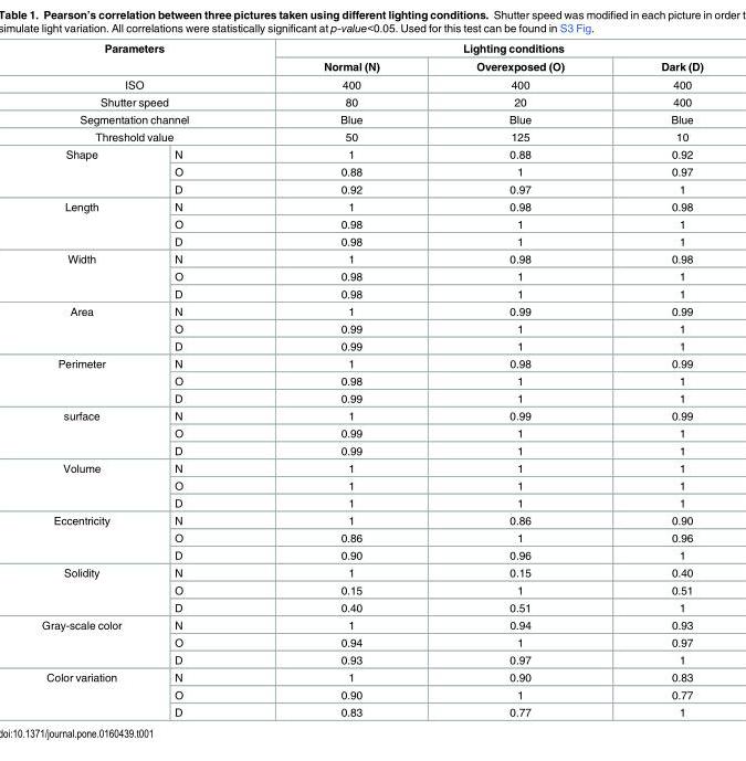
<table><thead><tr><td rowspan="2" colspan="2">Parameters</td><td colspan="3">Lighting conditions</td></tr><tr><td>Normal (N)</td><td>Overexposed (O)</td><td>Dark (D)</td></tr></thead><tbody><tr><td colspan="2">ISO</td><td>400</td><td>400</td><td>400</td></tr><tr><td colspan="2">Shutter speed</td><td>80</td><td>20</td><td>400</td></tr><tr><td colspan="2">Segmentation channel</td><td>Blue</td><td>Blue</td><td>Blue</td></tr><tr><td colspan="2">Threshold value</td><td>50</td><td>125</td><td>10</td></tr><tr><td rowspan="3">Shape</td><td>N</td><td>1</td><td>0.88</td><td>0.92</td></tr><tr><td>O</td><td>0.88</td><td>1</td><td>0.97</td></tr><tr><td>D</td><td>0.92</td><td>0.97</td><td>1</td></tr><tr><td rowspan="3">Length</td><td>N</td><td>1</td><td>0.98</td><td>0.98</td></tr><tr><td>O</td><td>0.98</td><td>1</td><td>1</td></tr><tr><td>D</td><td>0.98</td><td>1</td><td>1</td></tr><tr><td rowspan="3">Width</td><td>N</td><td>1</td><td>0.98</td><td>0.98</td></tr><tr><td>O</td><td>0.98</td><td>1</td><td>1</td></tr><tr><td>D</td><td>0.98</td><td>1</td><td>1</td></tr><tr><td rowspan="3">Area</td><td>N</td><td>1</td><td>0.99</td><td>0.99</td></tr><tr><td>O</td><td>0.99</td><td>1</td><td>1</td></tr><tr><td>D</td><td>0.99</td><td>1</td><td>1</td></tr><tr><td rowspan="3">Perimeter</td><td>N</td><td>1</td><td>0.98</td><td>0.99</td></tr><tr><td>O</td><td>0.98</td><td>1</td><td>1</td></tr><tr><td>D</td><td>0.99</td><td>1</td><td>1</td></tr><tr><td rowspan="3">surface</td><td>N</td><td>1</td><td>0.99</td><td>0.99</td></tr><tr><td>O</td><td>0.99</td><td>1</td><td>1</td></tr><tr><td>D</td><td>0.99</td><td>1</td><td>1</td></tr><tr><td rowspan="3">Volume</td><td>N</td><td>1</td><td>1</td><td>1</td></tr><tr><td>O</td><td>1</td><td>1</td><td>1</td></tr><tr><td>D</td><td>1</td><td>1</td><td>1</td></tr><tr><td rowspan="3">Eccentricity</td><td>N</td><td>1</td><td>0.86</td><td>0.90</td></tr><tr><td>O</td><td>0.86</td><td>1</td><td>0.96</td></tr><tr><td>D</td><td>0.90</td><td>0.96</td><td>1</td></tr><tr><td rowspan="3">Solidity</td><td>N</td><td>1</td><td>0.15</td><td>0.40</td></tr><tr><td>O</td><td>0.15</td><td>1</td><td>0.51</td></tr><tr><td>D</td><td>0.40</td><td>0.51</td><td>1</td></tr><tr><td rowspan="3">Gray-scale color</td><td>N</td><td>1</td><td>0.94</td><td>0.93</td></tr><tr><td>O</td><td>0.94</td><td>1</td><td>0.97</td></tr><tr><td>D</td><td>0.93</td><td>0.97</td><td>1</td></tr><tr><td rowspan="3">Color variation</td><td>N</td><td>1</td><td>0.90</td><td>0.83</td></tr><tr><td>O</td><td>0.90</td><td>1</td><td>0.77</td></tr><tr><td>D</td><td>0.83</td><td>0.77</td><td>1</td></tr></tbody></table>